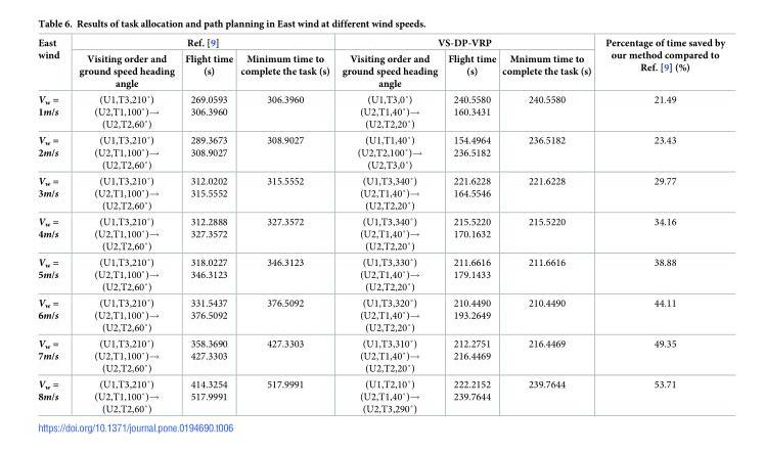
<table><thead><tr><td rowspan="2">East wind</td><td colspan="3">Ref. [9]</td><td colspan="3">VS-DP-VRP</td><td rowspan="2">Percentage of time saved by our method compared to Ref. [9] (%)</td></tr><tr><td>Visiting order and ground speed heading angle</td><td>Flight time (s)</td><td>Minimum time to complete the task (s)</td><td>Visiting order and ground speed heading angle</td><td>Flight time (s)</td><td>Mnimum time to complete the task (s)</td></tr></thead><tbody><tr><td>V<sub>w</sub> = 1m/s</td><td>(U1,T3,210˚) (U2,T1,100˚)→ (U2,T2,60˚)</td><td>269.0593 306.3960</td><td>306.3960</td><td>(U1,T3,0˚) (U2,T1,40˚)→ (U2,T2,20˚)</td><td>240.5580 160.3431</td><td>240.5580</td><td>21.49</td></tr><tr><td>V<sub>w</sub> = 2m/s</td><td>(U1,T3,210˚) (U2,T1,100˚)→ (U2,T2,60˚)</td><td>289.3673 308.9027</td><td>308.9027</td><td>(U1,T1,40˚) (U2,T2,100˚)→ (U2,T3,0˚)</td><td>154.4964 236.5182</td><td>236.5182</td><td>23.43</td></tr><tr><td>V<sub>w</sub> = 3m/s</td><td>(U1,T3,210˚) (U2,T1,100˚)→ (U2,T2,60˚)</td><td>312.0202 315.5552</td><td>315.5552</td><td>(U1,T3,340˚) (U2,T1,40˚)→ (U2,T2,20˚)</td><td>221.6228 164.5546</td><td>221.6228</td><td>29.77</td></tr><tr><td>V<sub>w</sub> = 4m/s</td><td>(U1,T3,210˚) (U2,T1,100˚)→ (U2,T2,60˚)</td><td>312.2888 327.3572</td><td>327.3572</td><td>(U1,T3,340˚) (U2,T1,40˚)→ (U2,T2,20˚)</td><td>215.5220 170.1632</td><td>215.5220</td><td>34.16</td></tr><tr><td>V<sub>w</sub> = 5m/s</td><td>(U1,T3,210˚) (U2,T1,100˚)→ (U2,T2,60˚)</td><td>318.0227 346.3123</td><td>346.3123</td><td>(U1,T3,330˚) (U2,T1,40˚)→ (U2,T2,20˚)</td><td>211.6616 179.1433</td><td>211.6616</td><td>38.88</td></tr><tr><td>V<sub>w</sub> = 6m/s</td><td>(U1,T3,210˚) (U2,T1,100˚)→ (U2,T2,60˚)</td><td>331.5437 376.5092</td><td>376.5092</td><td>(U1,T3,320˚) (U2,T1,40˚)→ (U2,T2,20˚)</td><td>210.4490 193.2649</td><td>210.4490</td><td>44.11</td></tr><tr><td>V<sub>w</sub> = 7m/s</td><td>(U1,T3,210˚) (U2,T1,100˚)→ (U2,T2,60˚)</td><td>358.3690 427.3303</td><td>427.3303</td><td>(U1,T3,310˚) (U2,T1,40˚)→ (U2,T2,20˚)</td><td>212.2751 216.4469</td><td>216.4469</td><td>49.35</td></tr><tr><td>V<sub>w</sub> = 8m/s</td><td>(U1,T3,210˚) (U2,T1,100˚)→ (U2,T2,60˚)</td><td>414.3254 517.9991</td><td>517.9991</td><td>(U1,T2,10˚) (U2,T1,40˚)→ (U2,T3,290˚)</td><td>222.2152 239.7644</td><td>239.7644</td><td>53.71</td></tr></tbody></table>